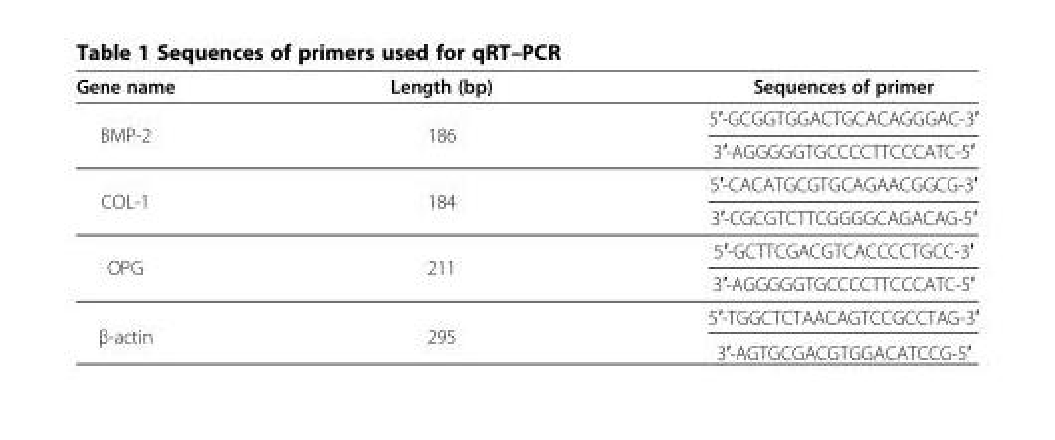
<table><thead><tr><td>Gene name</td><td>Length (bp)</td><td>Sequences of primer</td></tr></thead><tbody><tr><td rowspan="2">BMP-2</td><td rowspan="2">186</td><td>5′-GCGGTGGACTGCACAGGGAC-3′</td></tr><tr><td>3′-AGGGGGTGCCCCTTCCCATC-5′</td></tr><tr><td rowspan="2">COL-1</td><td rowspan="2">184</td><td>5′-CACATGCGTGCAGAACGGCG-3′</td></tr><tr><td>3′-CGCGTCTTCGGGGCAGACAG-5′</td></tr><tr><td rowspan="2">OPG</td><td rowspan="2">211</td><td>5′-GCTTCGACGTCACCCCTGCC-3′</td></tr><tr><td>3′-AGGGGGTGCCCCTTCCCATC-5′</td></tr><tr><td rowspan="2">β-actin</td><td rowspan="2">295</td><td>5′-TGGCTCTAACAGTCCGCCTAG-3′</td></tr><tr><td>3′-AGTGCGACGTGGACATCCG-5′</td></tr></tbody></table>